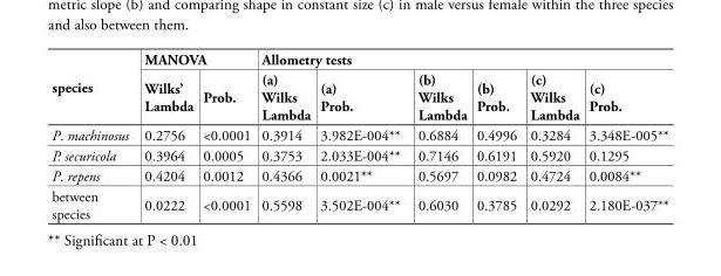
<table><thead><tr><td rowspan="2">species</td><td colspan="2">MANOVA</td><td colspan="6">Allometry tests</td></tr><tr><td>Wilks’ Lambda</td><td>Prob.</td><td>(a) Wilks Lambda</td><td>(a) Prob.</td><td>(b) Wilks Lambda</td><td>(b) Prob.</td><td>(c) Wilks Lambda</td><td>(c) Prob.</td></tr></thead><tbody><tr><td>P. machinosus</td><td>0.2756</td><td>&lt;0.0001</td><td>0.3914</td><td>3.982E-004**</td><td>0.6884</td><td>0.4996</td><td>0.3284</td><td>3.348E-005**</td></tr><tr><td>P. securicola</td><td>0.3964</td><td>0.0005</td><td>0.3753</td><td>2.033E-004**</td><td>0.7146</td><td>0.6191</td><td>0.5920</td><td>0.1295</td></tr><tr><td>P. repens</td><td>0.4204</td><td>0.0012</td><td>0.4366</td><td>0.0021**</td><td>0.5697</td><td>0.0982</td><td>0.4724</td><td>0.0084**</td></tr><tr><td>between species</td><td>0.0222</td><td>&lt;0.0001</td><td>0.5598</td><td>3.502E-004**</td><td>0.6030</td><td>0.3785</td><td>0.0292</td><td>2.180E-037**</td></tr></tbody></table>